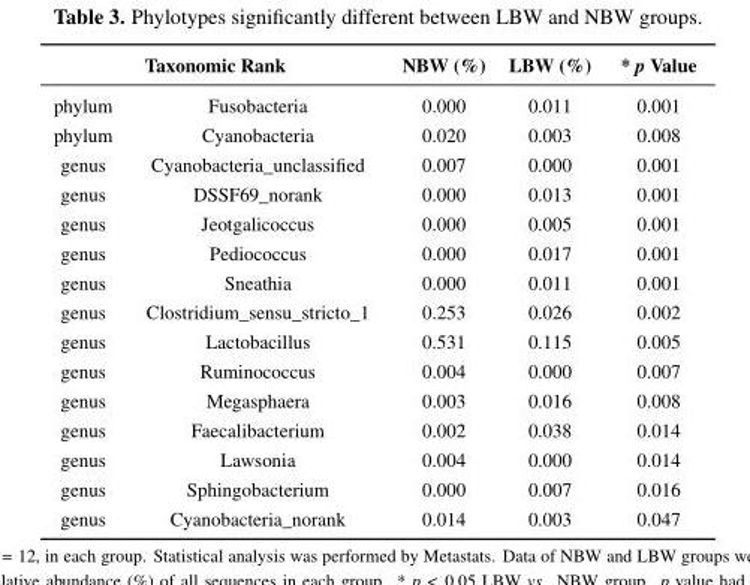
<table><thead><tr><td colspan="2">Taxonomic Rank</td><td rowspan="2">NBW (%) 0.000</td><td rowspan="2">LBW (%) 0.011</td><td rowspan="2">* p Value 0.001</td></tr><tr><td>phylum</td><td>Fusobacteria</td></tr></thead><tbody><tr><td>phylum</td><td>Cyanobacteria</td><td>0.020</td><td>0.003</td><td>0.008</td></tr><tr><td>genus</td><td>Cyanobacteria_unclassified</td><td>0.007</td><td>0.000</td><td>0.001</td></tr><tr><td>genus</td><td>DSSF69_norank</td><td>0.000</td><td>0.013</td><td>0.001</td></tr><tr><td>genus</td><td>Jeotgalicoccus</td><td>0.000</td><td>0.005</td><td>0.001</td></tr><tr><td>genus</td><td>Pediococcus</td><td>0.000</td><td>0.017</td><td>0.001</td></tr><tr><td>genus</td><td>Sneathia</td><td>0.000</td><td>0.011</td><td>0.001</td></tr><tr><td>genus</td><td>Clostridium_sensu_stricto_1</td><td>0.253</td><td>0.026</td><td>0.002</td></tr><tr><td>genus</td><td>Lactobacillus</td><td>0.531</td><td>0.115</td><td>0.005</td></tr><tr><td>genus</td><td>Ruminococcus</td><td>0.004</td><td>0.000</td><td>0.007</td></tr><tr><td>genus</td><td>Megasphaera</td><td>0.003</td><td>0.016</td><td>0.008</td></tr><tr><td>genus</td><td>Faecalibacterium</td><td>0.002</td><td>0.038</td><td>0.014</td></tr><tr><td>genus</td><td>Lawsonia</td><td>0.004</td><td>0.000</td><td>0.014</td></tr><tr><td>genus</td><td>Sphingobacterium</td><td>0.000</td><td>0.007</td><td>0.016</td></tr><tr><td>genus</td><td>Cyanobacteria_norank</td><td>0.014</td><td>0.003</td><td>0.047</td></tr></tbody></table>